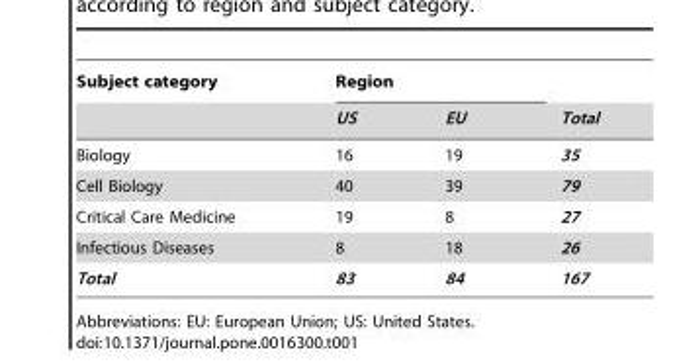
<table><thead><tr><td rowspan="2">Subject category</td><td colspan="2">Region</td><td rowspan="2">Total</td></tr><tr><td>US</td><td>EU</td></tr></thead><tbody><tr><td>Biology</td><td>16</td><td>19</td><td>35</td></tr><tr><td>Cell Biology</td><td>40</td><td>39</td><td>79</td></tr><tr><td>Critical Care Medicine</td><td>19</td><td>8</td><td>27</td></tr><tr><td>Infectious Diseases</td><td>8</td><td>18</td><td>26</td></tr><tr><td>Total</td><td>83</td><td>84</td><td>167</td></tr></tbody></table>